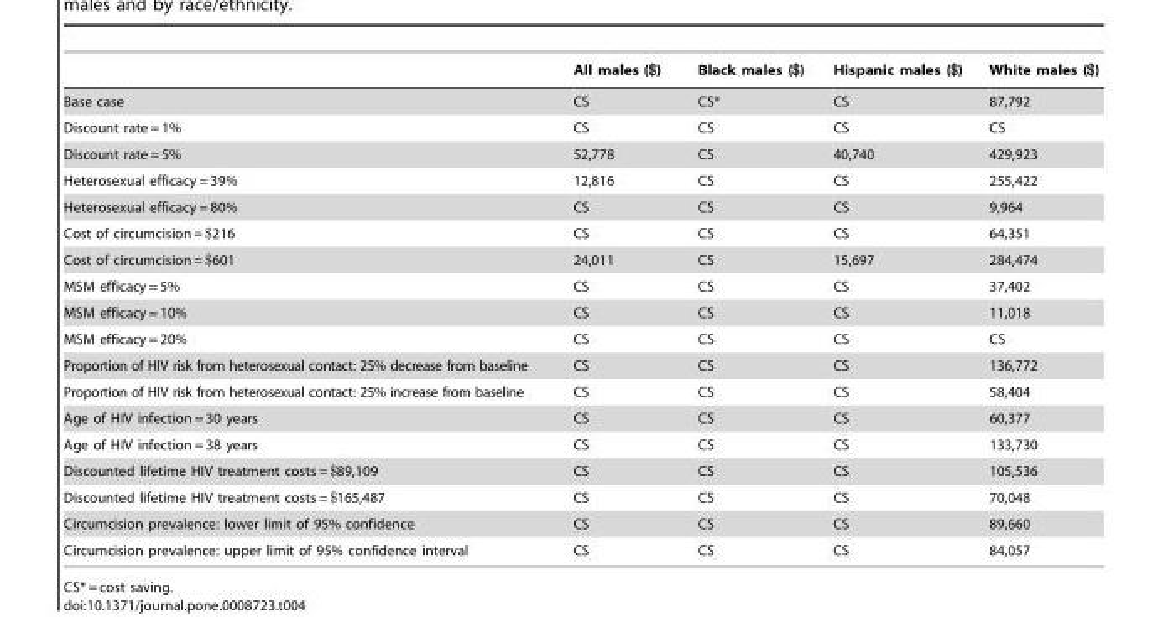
<table><thead><tr><td></td><td>All males ($)</td><td>Black males ($)</td><td>Hispanic males ($)</td><td>White males ($)</td></tr></thead><tbody><tr><td>Base case</td><td>CS</td><td>CS*</td><td>CS</td><td>87,792</td></tr><tr><td>Discount rate = 1%</td><td>CS</td><td>CS</td><td>CS</td><td>CS</td></tr><tr><td>Discount rate = 5%</td><td>52,778</td><td>CS</td><td>40,740</td><td>429,923</td></tr><tr><td>Heterosexual efficacy = 39%</td><td>12,816</td><td>CS</td><td>CS</td><td>255,422</td></tr><tr><td>Heterosexual efficacy = 80%</td><td>CS</td><td>CS</td><td>CS</td><td>9,964</td></tr><tr><td>Cost of circumcision = $216</td><td>CS</td><td>CS</td><td>CS</td><td>64,351</td></tr><tr><td>Cost of circumcision = $601</td><td>24,011</td><td>CS</td><td>15,697</td><td>284,474</td></tr><tr><td>MSM efficacy = 5%</td><td>CS</td><td>CS</td><td>CS</td><td>37,402</td></tr><tr><td>MSM efficacy = 10%</td><td>CS</td><td>CS</td><td>CS</td><td>11,018</td></tr><tr><td>MSM efficacy = 20%</td><td>CS</td><td>CS</td><td>CS</td><td>CS</td></tr><tr><td>Proportion of HIV risk from heterosexual contact: 25% decrease from baseline</td><td>CS</td><td>CS</td><td>CS</td><td>136,772</td></tr><tr><td>Proportion of HIV risk from heterosexual contact: 25% increase from baseline</td><td>CS</td><td>CS</td><td>CS</td><td>58,404</td></tr><tr><td>Age of HIV infection = 30 years</td><td>CS</td><td>CS</td><td>CS</td><td>60,377</td></tr><tr><td>Age of HIV infection = 38 years</td><td>CS</td><td>CS</td><td>CS</td><td>133,730</td></tr><tr><td>Discounted lifetime HIV treatment costs = $89,109</td><td>CS</td><td>CS</td><td>CS</td><td>105,536</td></tr><tr><td>Discounted lifetime HIV treatment costs = $165,487</td><td>CS</td><td>CS</td><td>CS</td><td>70,048</td></tr><tr><td>Circumcision prevalence: lower limit of 95% confidence</td><td>CS</td><td>CS</td><td>CS</td><td>89,660</td></tr><tr><td>Circumcision prevalence: upper limit of 95% confidence interval</td><td>CS</td><td>CS</td><td>CS</td><td>84,057</td></tr></tbody></table>